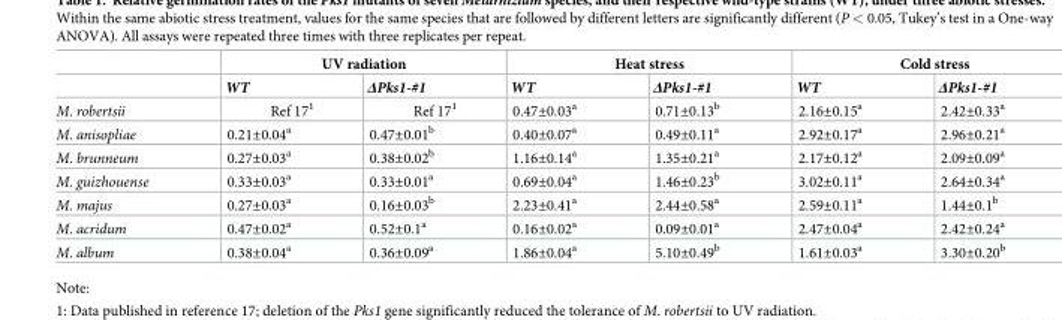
<table><thead><tr><td rowspan="2"></td><td colspan="2">UV radiation</td><td colspan="2">Heat stress</td><td colspan="2">Cold stress</td></tr><tr><td>WT</td><td>ΔPks1-#1</td><td>WT</td><td>ΔPks1-#1</td><td>WT</td><td>ΔPks1-#1</td></tr></thead><tbody><tr><td>M. robertsii</td><td>Ref 17<sup>1</sup></td><td>Ref 17<sup>1</sup></td><td>0.47±0.03<sup>a</sup></td><td>0.71±0.13<sup>b</sup></td><td>2.16±0.15<sup>a</sup></td><td>2.42±0.33<sup>a</sup></td></tr><tr><td>M. anisopliae</td><td>0.21±0.04<sup>a</sup></td><td>0.47±0.01<sup>b</sup></td><td>0.40±0.07<sup>a</sup></td><td>0.49±0.11<sup>a</sup></td><td>2.92±0.17<sup>a</sup></td><td>2.96±0.21<sup>a</sup></td></tr><tr><td>M. brunneum</td><td>0.27±0.03<sup>a</sup></td><td>0.38±0.02<sup>b</sup></td><td>1.16±0.14<sup>a</sup></td><td>1.35±0.21<sup>a</sup></td><td>2.17±0.12<sup>a</sup></td><td>2.09±0.09<sup>a</sup></td></tr><tr><td>M. guizhouense</td><td>0.33±0.03<sup>a</sup></td><td>0.33±0.01<sup>a</sup></td><td>0.69±0.04<sup>a</sup></td><td>1.46±0.23<sup>b</sup></td><td>3.02±0.11<sup>a</sup></td><td>2.64±0.34<sup>a</sup></td></tr><tr><td>M. majus</td><td>0.27±0.03<sup>a</sup></td><td>0.16±0.03<sup>b</sup></td><td>2.23±0.41<sup>a</sup></td><td>2.44±0.58<sup>a</sup></td><td>2.59±0.11<sup>a</sup></td><td>1.44±0.1<sup>b</sup></td></tr><tr><td>M. acridum</td><td>0.47±0.02<sup>a</sup></td><td>0.52±0.1<sup>a</sup></td><td>0.16±0.02<sup>a</sup></td><td>0.09±0.01<sup>a</sup></td><td>2.47±0.04<sup>a</sup></td><td>2.42±0.24<sup>a</sup></td></tr><tr><td>M. album</td><td>0.38±0.04<sup>a</sup></td><td>0.36±0.09<sup>a</sup></td><td>1.86±0.04<sup>a</sup></td><td>5.10±0.49<sup>b</sup></td><td>1.61±0.03<sup>a</sup></td><td>3.30±0.20<sup>b</sup></td></tr></tbody></table>